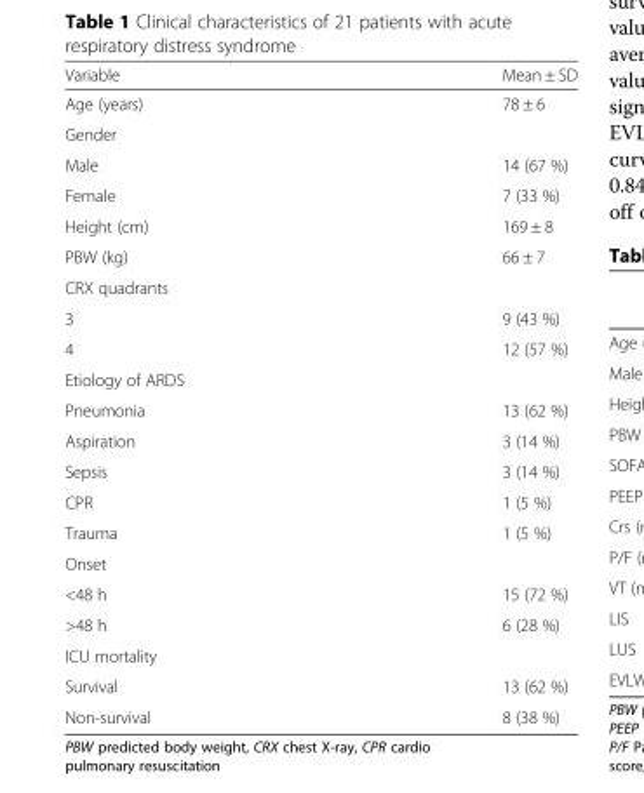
<table><thead><tr><td>Variable</td><td>Mean ± SD</td></tr></thead><tbody><tr><td>Age (years)</td><td>78 ± 6</td></tr><tr><td colspan="2">Gender</td></tr><tr><td>Male</td><td>14 (67 %)</td></tr><tr><td>Female</td><td>7 (33 %)</td></tr><tr><td>Height (cm)</td><td>169 ± 8</td></tr><tr><td>PBW (kg)</td><td>66 ± 7</td></tr><tr><td colspan="2">CRX quadrants</td></tr><tr><td>3</td><td>9 (43 %)</td></tr><tr><td>4</td><td>12 (57 %)</td></tr><tr><td colspan="2">Etiology of ARDS</td></tr><tr><td>Pneumonia</td><td>13 (62 %)</td></tr><tr><td>Aspiration</td><td>3 (14 %)</td></tr><tr><td>Sepsis</td><td>3 (14 %)</td></tr><tr><td>CPR</td><td>1 (5 %)</td></tr><tr><td>Trauma</td><td>1 (5 %)</td></tr><tr><td colspan="2">Onset</td></tr><tr><td>&lt;48 h</td><td>15 (72 %)</td></tr><tr><td>&gt;48 h</td><td>6 (28 %)</td></tr><tr><td colspan="2">ICU mortality</td></tr><tr><td>Survival</td><td>13 (62 %)</td></tr><tr><td>Non-survival</td><td>8 (38 %)</td></tr></tbody></table>